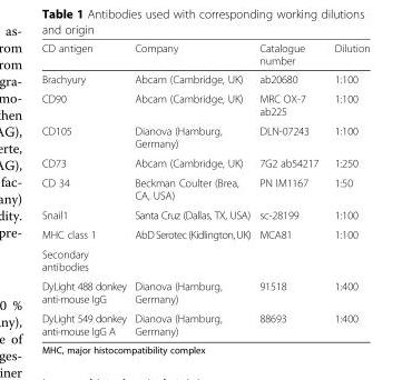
<table><thead><tr><td>CD antigen</td><td>Company</td><td>Catalogue number</td><td>Dilution</td></tr></thead><tbody><tr><td>Brachyury</td><td>Abcam (Cambridge, UK)</td><td>ab20680</td><td>1:100</td></tr><tr><td>CD90</td><td>Abcam (Cambridge, UK)</td><td>MRC OX-7 ab225</td><td>1:100</td></tr><tr><td>CD105</td><td>Dianova (Hamburg, Germany)</td><td>DLN-07243</td><td>1:100</td></tr><tr><td>CD73</td><td>Abcam (Cambridge, UK)</td><td>7G2 ab54217</td><td>1:250</td></tr><tr><td>CD 34</td><td>Beckman Coulter (Brea, CA, USA)</td><td>PN IM1167</td><td>1:50</td></tr><tr><td>Snail1</td><td>Santa Cruz (Dallas, TX, USA)</td><td>sc-28199</td><td>1:100</td></tr><tr><td>MHC class 1</td><td>AbDSerotec(Kidlington,UK)</td><td>MCA81</td><td>1:100</td></tr><tr><td colspan="4">Secondary antibodies</td></tr><tr><td>DyLight 488 donkey anti-mouse IgG</td><td>Dianova (Hamburg, Germany)</td><td>91518</td><td>1:400</td></tr><tr><td>DyLight 549 donkey anti-mouse IgG A</td><td>Dianova (Hamburg, Germany)</td><td>88693</td><td>1:400</td></tr></tbody></table>